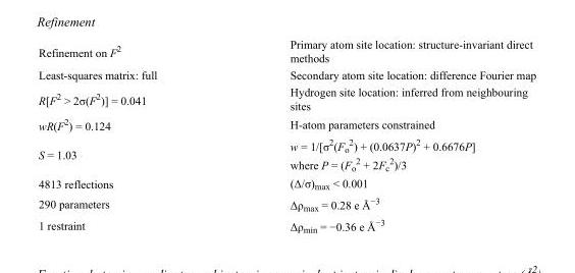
<table><tbody><tr><td>Refinement on F<sup>2</sup></td><td>Primary atom site location: structure-invariant direct methods</td></tr><tr><td>Least-squares matrix: full</td><td>Secondary atom site location: difference Fourier map</td></tr><tr><td>R[F<sup>2</sup> &gt; 2σ(F<sup>2</sup>)] = 0.041</td><td>Hydrogen site location: inferred from neighbouring sites</td></tr><tr><td>wR(F<sup>2</sup>) = 0.124</td><td>H-atom parameters constrained</td></tr><tr><td>S = 1.03</td><td>w = 1/[σ<sup>2</sup>(F<sub>o</sub> <sup>2</sup>) + (0.0637P)<sup>2</sup> + 0.6676P] where P = (F<sub>o</sub> <sup>2</sup> + 2F<sub>c</sub> <sup>2</sup>)/3</td></tr><tr><td>4813 reflections</td><td>(Δ/σ)<sub>max</sub> &lt; 0.001</td></tr><tr><td>290 parameters</td><td>Δρ<sub>max</sub> = 0.28 e Å<sup>−3</sup></td></tr><tr><td>1 restraint</td><td>Δρ<sub>min</sub> = −0.36 e Å<sup>−3</sup></td></tr></tbody></table>